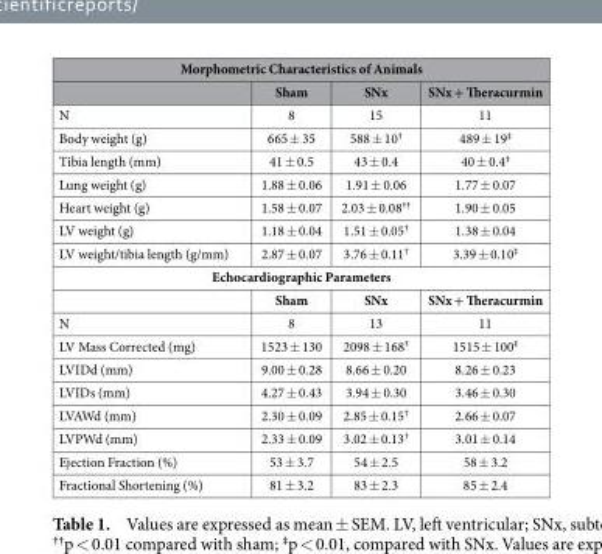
<table><thead><tr><td colspan="4">Morphometric Characteristics of Animals</td></tr><tr><td></td><td>Sham</td><td>SNx</td><td>SNx + Theracurmin</td></tr></thead><tbody><tr><td>N</td><td>8</td><td>15</td><td>11</td></tr><tr><td>Body weight (g)</td><td>665 ± 35</td><td>588 ± 10<sup>†</sup></td><td>489 ± 19<sup>‡</sup></td></tr><tr><td>Tibia length (mm)</td><td>41 ± 0.5</td><td>43 ± 0.4</td><td>40 ± 0.4<sup>‡</sup></td></tr><tr><td>Lung weight (g)</td><td>1.88 ± 0.06</td><td>1.91 ± 0.06</td><td>1.77 ± 0.07</td></tr><tr><td>Heart weight (g)</td><td>1.58 ± 0.07</td><td>2.03 ± 0.08<sup>††</sup></td><td>1.90 ± 0.05</td></tr><tr><td>LV weight (g)</td><td>1.18 ± 0.04</td><td>1.51 ± 0.05<sup>†</sup></td><td>1.38 ± 0.04</td></tr><tr><td>LV weight/tibia length (g/mm)</td><td>2.87 ± 0.07</td><td>3.76 ± 0.11<sup>†</sup></td><td>3.39 ± 0.10<sup>‡</sup></td></tr><tr><td colspan="4">Echocardiographic Parameters</td></tr><tr><td></td><td>Sham</td><td>SNx</td><td>SNx + Theracurmin</td></tr><tr><td>N</td><td>8</td><td>13</td><td>11</td></tr><tr><td>LV Mass Corrected (mg)</td><td>1523 ± 130</td><td>2098 ± 168<sup>†</sup></td><td>1515 ± 100<sup>‡</sup></td></tr><tr><td>LVIDd (mm)</td><td>9.00 ± 0.28</td><td>8.66 ± 0.20</td><td>8.26 ± 0.23</td></tr><tr><td>LVIDs (mm)</td><td>4.27 ± 0.43</td><td>3.94 ± 0.30</td><td>3.46 ± 0.30</td></tr><tr><td>LVAWd (mm)</td><td>2.30 ± 0.09</td><td>2.85 ± 0.15<sup>†</sup></td><td>2.66 ± 0.07</td></tr><tr><td>LVPWd (mm)</td><td>2.33 ± 0.09</td><td>3.02 ± 0.13<sup>†</sup></td><td>3.01 ± 0.14</td></tr><tr><td>Ejection Fraction (%)</td><td>53 ± 3.7</td><td>54 ± 2.5</td><td>58 ± 3.2</td></tr><tr><td>Fractional Shortening (%)</td><td>81 ± 3.2</td><td>83 ± 2.3</td><td>85 ± 2.4</td></tr></tbody></table>